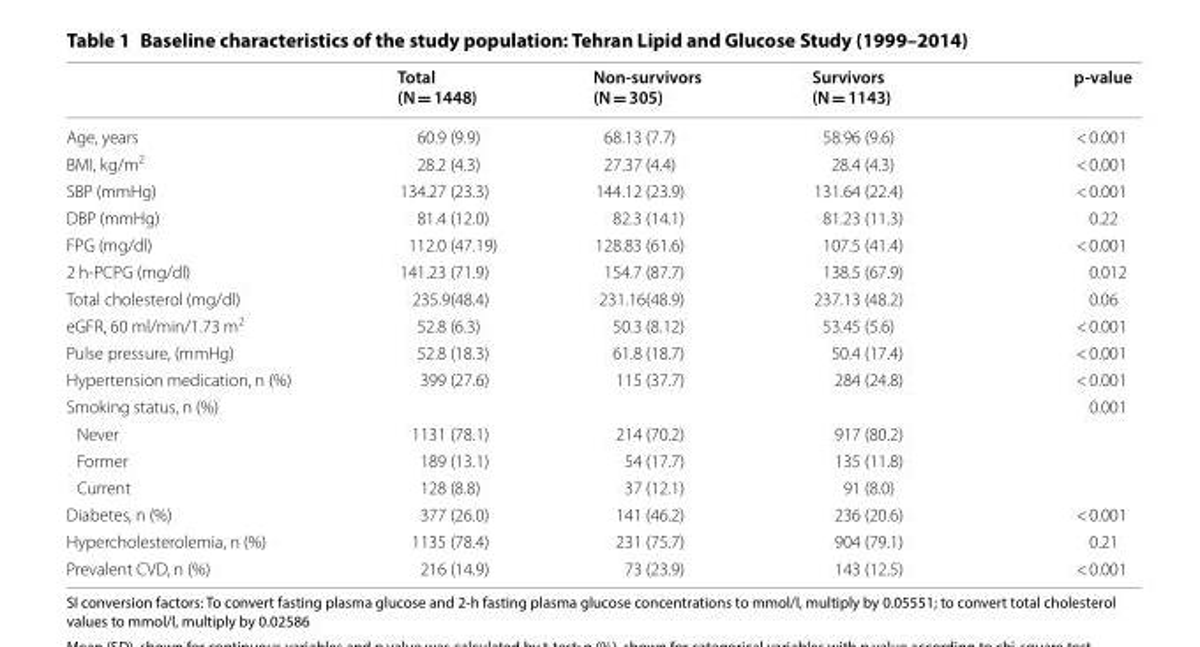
<table><thead><tr><td></td><td>Total (N = 1448)</td><td>Non-survivors (N = 305)</td><td>Survivors (N = 1143)</td><td>p-value</td></tr></thead><tbody><tr><td>Age, years</td><td>60.9 (9.9)</td><td>68.13 (7.7)</td><td>58.96 (9.6)</td><td>&lt; 0.001</td></tr><tr><td>BMI, kg/m<sup>2</sup></td><td>28.2 (4.3)</td><td>27.37 (4.4)</td><td>28.4 (4.3)</td><td>&lt; 0.001</td></tr><tr><td>SBP (mmHg)</td><td>134.27 (23.3)</td><td>144.12 (23.9)</td><td>131.64 (22.4)</td><td>&lt; 0.001</td></tr><tr><td>DBP (mmHg)</td><td>81.4 (12.0)</td><td>82.3 (14.1)</td><td>81.23 (11.3)</td><td>0.22</td></tr><tr><td>FPG (mg/dl)</td><td>112.0 (47.19)</td><td>128.83 (61.6)</td><td>107.5 (41.4)</td><td>&lt; 0.001</td></tr><tr><td>2 h-PCPG (mg/dl)</td><td>141.23 (71.9)</td><td>154.7 (87.7)</td><td>138.5 (67.9)</td><td>0.012</td></tr><tr><td>Total cholesterol (mg/dl)</td><td>235.9(48.4)</td><td>231.16(48.9)</td><td>237.13 (48.2)</td><td>0.06</td></tr><tr><td>eGFR, 60 ml/min/1.73 m<sup>2</sup></td><td>52.8 (6.3)</td><td>50.3 (8.12)</td><td>53.45 (5.6)</td><td>&lt; 0.001</td></tr><tr><td>Pulse pressure, (mmHg)</td><td>52.8 (18.3)</td><td>61.8 (18.7)</td><td>50.4 (17.4)</td><td>&lt; 0.001</td></tr><tr><td>Hypertension medication, n (%)</td><td>399 (27.6)</td><td>115 (37.7)</td><td>284 (24.8)</td><td>&lt; 0.001</td></tr><tr><td>Smoking status, n (%)</td><td></td><td></td><td></td><td>0.001</td></tr><tr><td>Never</td><td>1131 (78.1)</td><td>214 (70.2)</td><td>917 (80.2)</td><td></td></tr><tr><td>Former</td><td>189 (13.1)</td><td>54 (17.7)</td><td>135 (11.8)</td><td></td></tr><tr><td>Current</td><td>128 (8.8)</td><td>37 (12.1)</td><td>91 (8.0)</td><td></td></tr><tr><td>Diabetes, n (%)</td><td>377 (26.0)</td><td>141 (46.2)</td><td>236 (20.6)</td><td>&lt; 0.001</td></tr><tr><td>Hypercholesterolemia, n (%)</td><td>1135 (78.4)</td><td>231 (75.7)</td><td>904 (79.1)</td><td>0.21</td></tr><tr><td>Prevalent CVD, n (%)</td><td>216 (14.9)</td><td>73 (23.9)</td><td>143 (12.5)</td><td>&lt; 0.001</td></tr></tbody></table>